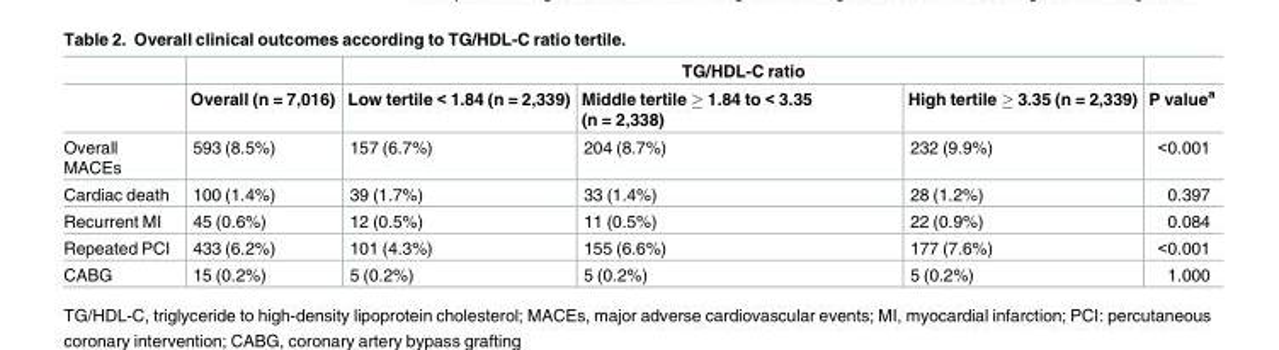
<table><thead><tr><td rowspan="2"></td><td rowspan="2">Overall (n = 7,016)</td><td colspan="3">TG/HDL-C ratio</td><td rowspan="2">P value<sup>a</sup></td></tr><tr><td>Low tertile &lt; 1.84 (n = 2,339)</td><td>Middle tertile ≥ 1.84 to &lt; 3.35 (n = 2,338)</td><td>High tertile ≥ 3.35 (n = 2,339)</td></tr></thead><tbody><tr><td>Overall MACEs</td><td>593 (8.5%)</td><td>157 (6.7%)</td><td>204 (8.7%)</td><td>232 (9.9%)</td><td>&lt;0.001</td></tr><tr><td>Cardiac death</td><td>100 (1.4%)</td><td>39 (1.7%)</td><td>33 (1.4%)</td><td>28 (1.2%)</td><td>0.397</td></tr><tr><td>Recurrent MI</td><td>45 (0.6%)</td><td>12 (0.5%)</td><td>11 (0.5%)</td><td>22 (0.9%)</td><td>0.084</td></tr><tr><td>Repeated PCI</td><td>433 (6.2%)</td><td>101 (4.3%)</td><td>155 (6.6%)</td><td>177 (7.6%)</td><td>&lt;0.001</td></tr><tr><td>CABG</td><td>15 (0.2%)</td><td>5 (0.2%)</td><td>5 (0.2%)</td><td>5 (0.2%)</td><td>1.000</td></tr></tbody></table>